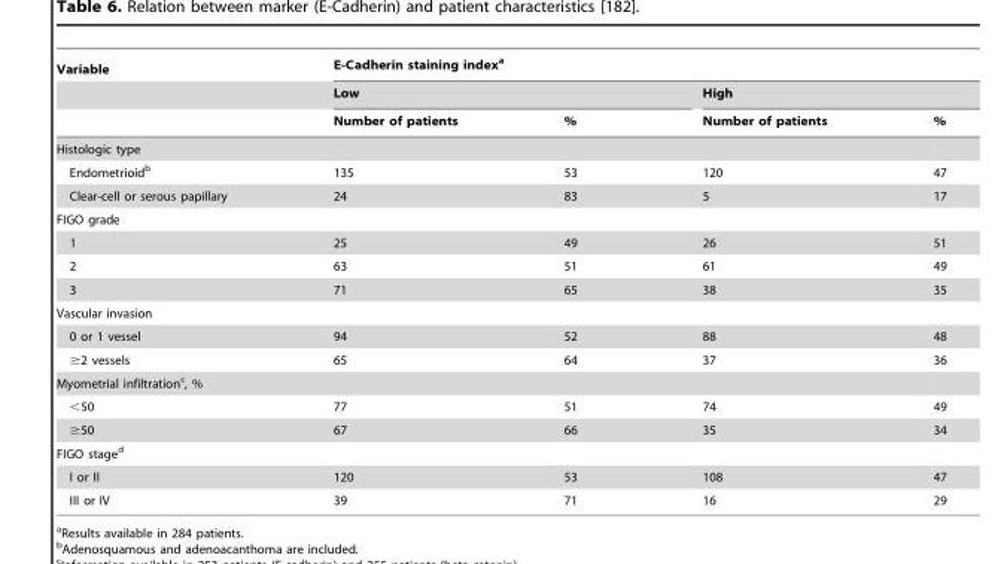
<table><thead><tr><td rowspan="3">Variable</td><td colspan="4">E-Cadherin staining index<sup>a</sup></td></tr><tr><td colspan="2">Low</td><td colspan="2">High</td></tr><tr><td>Number of patients</td><td>%</td><td>Number of patients</td><td>%</td></tr></thead><tbody><tr><td colspan="5">Histologic type</td></tr><tr><td>Endometrioid<sup>b</sup></td><td>135</td><td>53</td><td>120</td><td>47</td></tr><tr><td>Clear-cell or serous papillary</td><td>24</td><td>83</td><td>5</td><td>17</td></tr><tr><td colspan="5">FIGO grade</td></tr><tr><td>1</td><td>25</td><td>49</td><td>26</td><td>51</td></tr><tr><td>2</td><td>63</td><td>51</td><td>61</td><td>49</td></tr><tr><td>3</td><td>71</td><td>65</td><td>38</td><td>35</td></tr><tr><td colspan="5">Vascular invasion</td></tr><tr><td>0 or 1 vessel</td><td>94</td><td>52</td><td>88</td><td>48</td></tr><tr><td>≥2 vessels</td><td>65</td><td>64</td><td>37</td><td>36</td></tr><tr><td colspan="5">Myometrial infiltration<sup>c</sup>, %</td></tr><tr><td>&lt;50</td><td>77</td><td>51</td><td>74</td><td>49</td></tr><tr><td>≥50</td><td>67</td><td>66</td><td>35</td><td>34</td></tr><tr><td colspan="5">FIGO stage<sup>d</sup></td></tr><tr><td>I or II</td><td>120</td><td>53</td><td>108</td><td>47</td></tr><tr><td>III or IV</td><td>39</td><td>71</td><td>16</td><td>29</td></tr></tbody></table>